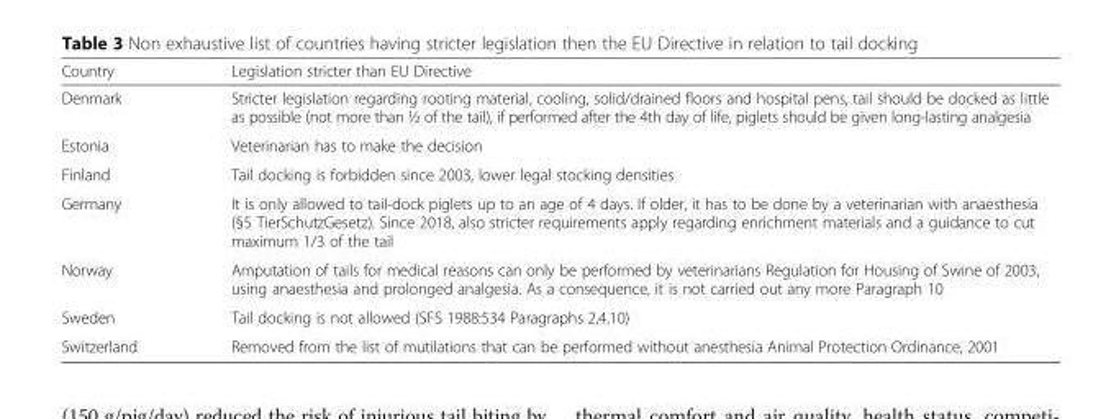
<table><thead><tr><td>Country</td><td>Legislation stricter than EU Directive</td></tr></thead><tbody><tr><td>Denmark</td><td>Stricter legislation regarding rooting material, cooling, solid/drained floors and hospital pens, tail should be docked as little as possible (not more than ½ of the tail), if performed after the 4th day of life, piglets should be given long-lasting analgesia</td></tr><tr><td>Estonia</td><td>Veterinarian has to make the decision</td></tr><tr><td>Finland</td><td>Tail docking is forbidden since 2003, lower legal stocking densities</td></tr><tr><td>Germany</td><td>It is only allowed to tail-dock piglets up to an age of 4 days. If older, it has to be done by a veterinarian with anaesthesia (§5 TierSchutzGesetz). Since 2018, also stricter requirements apply regarding enrichment materials and a guidance to cut maximum 1/3 of the tail</td></tr><tr><td>Norway</td><td>Amputation of tails for medical reasons can only be performed by veterinarians Regulation for Housing of Swine of 2003, using anaesthesia and prolonged analgesia. As a consequence, it is not carried out any more Paragraph 10</td></tr><tr><td>Sweden</td><td>Tail docking is not allowed (SFS 1988:534 Paragraphs 2,4,10)</td></tr><tr><td>Switzerland</td><td>Removed from the list of mutilations that can be performed without anesthesia Animal Protection Ordinance, 2001</td></tr></tbody></table>